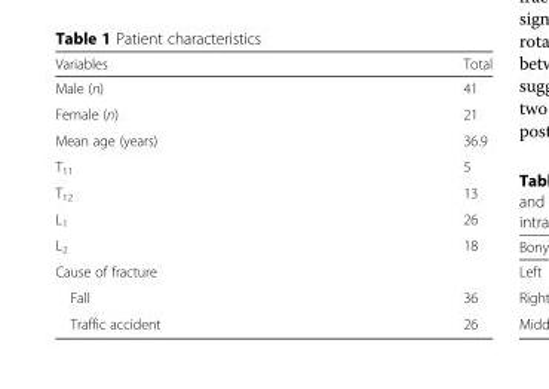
<table><thead><tr><td>Variables</td><td>Total</td></tr></thead><tbody><tr><td>Male (n)</td><td>41</td></tr><tr><td>Female (n)</td><td>21</td></tr><tr><td>Mean age (years)</td><td>36.9</td></tr><tr><td>T<sub>11</sub></td><td>5</td></tr><tr><td>T<sub>12</sub></td><td>13</td></tr><tr><td>L<sub>1</sub></td><td>26</td></tr><tr><td>L<sub>2</sub></td><td>18</td></tr><tr><td colspan="2">Cause of fracture</td></tr><tr><td>Fall</td><td>36</td></tr><tr><td>Traffic accident</td><td>26</td></tr></tbody></table>